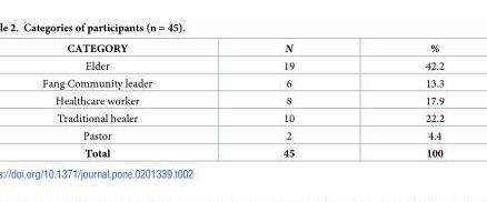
<table><thead><tr><td>CATEGORY</td><td>N</td><td>%</td></tr></thead><tbody><tr><td>Elder</td><td>19</td><td>42.2</td></tr><tr><td>Fang Community leader</td><td>6</td><td>13.3</td></tr><tr><td>Healthcare worker</td><td>8</td><td>17.9</td></tr><tr><td>Traditional healer</td><td>10</td><td>22.2</td></tr><tr><td>Pastor</td><td>2</td><td>4.4</td></tr><tr><td>Total</td><td>45</td><td>100</td></tr></tbody></table>